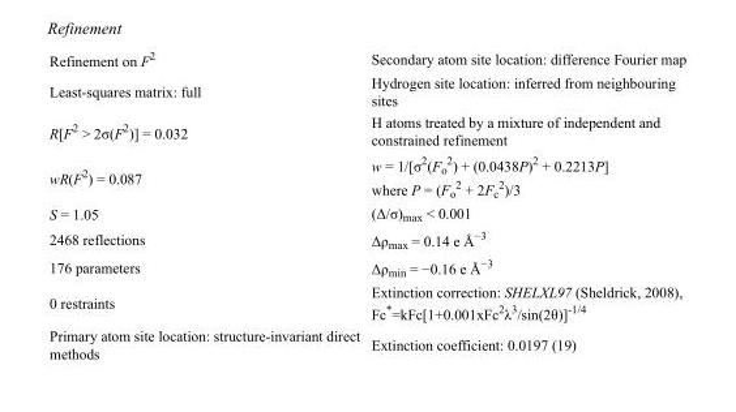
<table><tbody><tr><td>Refinement on F<sup>2</sup></td><td>Secondary atom site location: difference Fourier map</td></tr><tr><td>Least-squares matrix: full</td><td>Hydrogen site location: inferred from neighbouring sites</td></tr><tr><td>R[F<sup>2</sup> &gt; 2σ(F<sup>2</sup>)] = 0.032</td><td>H atoms treated by a mixture of independent and constrained refinement</td></tr><tr><td>wR(F<sup>2</sup>) = 0.087</td><td>w = 1/[σ<sup>2</sup>(F<sub>o</sub> <sup>2</sup>) + (0.0438P)<sup>2</sup> + 0.2213P] where P = (F<sub>o</sub> <sup>2</sup> + 2F<sub>c</sub> <sup>2</sup>)/3</td></tr><tr><td>S = 1.05</td><td>(Δ/σ)<sub>max</sub> &lt; 0.001</td></tr><tr><td>2468 reflections</td><td>Δρ<sub>max</sub> = 0.14 e Å<sup>−3</sup></td></tr><tr><td>176 parameters</td><td>Δρ<sub>min</sub> = −0.16 e Å<sup>−3</sup></td></tr><tr><td>0 restraints</td><td>Extinction correction: SHELXL97 (Sheldrick, 2008), Fc*=kFc[1+0.001xFc<sup>2</sup>λ<sup>3</sup>/sin(2θ)]<sup>-1/4</sup></td></tr><tr><td>Primary atom site location: structure-invariant direct methods</td><td>Extinction coefficient: 0.0197 (19)</td></tr></tbody></table>